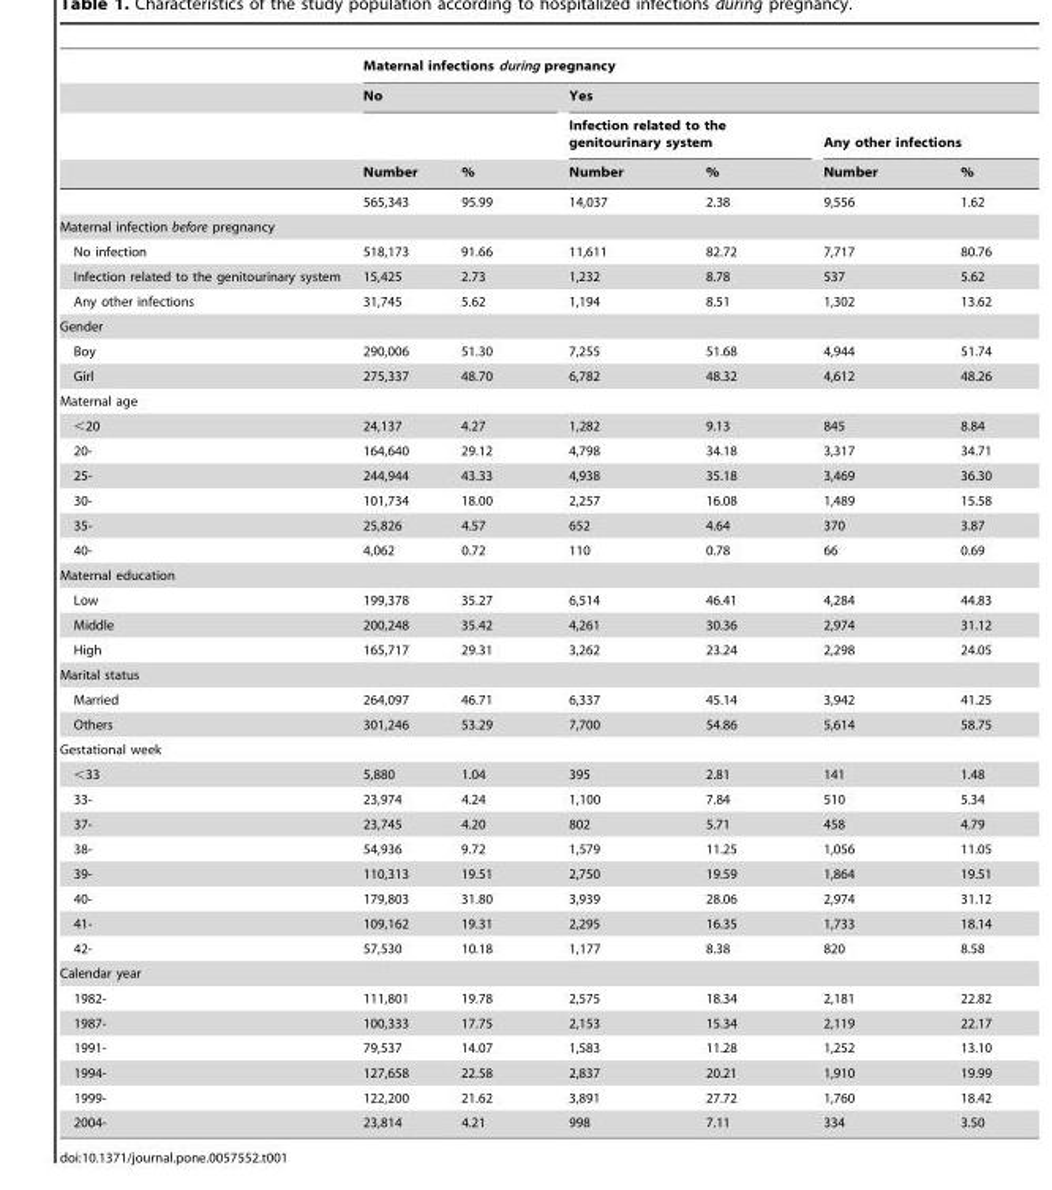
<table><thead><tr><td rowspan="4"></td><td colspan="6">Maternal infections during pregnancy</td></tr><tr><td colspan="2">No</td><td colspan="4">Yes</td></tr><tr><td rowspan="2">Number</td><td rowspan="2">%</td><td colspan="2">Infection related to the genitourinary system</td><td colspan="2">Any other infections</td></tr><tr><td>Number</td><td>%</td><td>Number</td><td>%</td></tr></thead><tbody><tr><td></td><td>565,343</td><td>95.99</td><td>14,037</td><td>2.38</td><td>9,556</td><td>1.62</td></tr><tr><td colspan="7">Maternal infection before pregnancy</td></tr><tr><td>No infection</td><td>518,173</td><td>91.66</td><td>11,611</td><td>82.72</td><td>7,717</td><td>80.76</td></tr><tr><td>Infection related to the genitourinary system</td><td>15,425</td><td>2.73</td><td>1,232</td><td>8.78</td><td>537</td><td>5.62</td></tr><tr><td>Any other infections</td><td>31,745</td><td>5.62</td><td>1,194</td><td>8.51</td><td>1,302</td><td>13.62</td></tr><tr><td colspan="7">Gender</td></tr><tr><td>Boy</td><td>290,006</td><td>51.30</td><td>7,255</td><td>51.68</td><td>4,944</td><td>51.74</td></tr><tr><td>Girl</td><td>275,337</td><td>48.70</td><td>6,782</td><td>48.32</td><td>4,612</td><td>48.26</td></tr><tr><td colspan="7">Maternal age</td></tr><tr><td>&lt;20</td><td>24,137</td><td>4.27</td><td>1,282</td><td>9.13</td><td>845</td><td>8.84</td></tr><tr><td>20-</td><td>164,640</td><td>29.12</td><td>4,798</td><td>34.18</td><td>3,317</td><td>34.71</td></tr><tr><td>25-</td><td>244,944</td><td>43.33</td><td>4,938</td><td>35.18</td><td>3,469</td><td>36.30</td></tr><tr><td>30-</td><td>101,734</td><td>18.00</td><td>2,257</td><td>16.08</td><td>1,489</td><td>15.58</td></tr><tr><td>35-</td><td>25,826</td><td>4.57</td><td>652</td><td>4.64</td><td>370</td><td>3.87</td></tr><tr><td>40-</td><td>4,062</td><td>0.72</td><td>110</td><td>0.78</td><td>66</td><td>0.69</td></tr><tr><td colspan="7">Maternal education</td></tr><tr><td>Low</td><td>199,378</td><td>35.27</td><td>6,514</td><td>46.41</td><td>4,284</td><td>44.83</td></tr><tr><td>Middle</td><td>200,248</td><td>35.42</td><td>4,261</td><td>30.36</td><td>2,974</td><td>31.12</td></tr><tr><td>High</td><td>165,717</td><td>29.31</td><td>3,262</td><td>23.24</td><td>2,298</td><td>24.05</td></tr><tr><td colspan="7">Marital status</td></tr><tr><td>Married</td><td>264,097</td><td>46.71</td><td>6,337</td><td>45.14</td><td>3,942</td><td>41.25</td></tr><tr><td>Others</td><td>301,246</td><td>53.29</td><td>7,700</td><td>54.86</td><td>5,614</td><td>58.75</td></tr><tr><td colspan="7">Gestational week</td></tr><tr><td>&lt;33</td><td>5,880</td><td>1.04</td><td>395</td><td>2.81</td><td>141</td><td>1.48</td></tr><tr><td>33-</td><td>23,974</td><td>4.24</td><td>1,100</td><td>7.84</td><td>510</td><td>5.34</td></tr><tr><td>37-</td><td>23,745</td><td>4.20</td><td>802</td><td>5.71</td><td>458</td><td>4.79</td></tr><tr><td>38-</td><td>54,936</td><td>9.72</td><td>1,579</td><td>11.25</td><td>1,056</td><td>11.05</td></tr><tr><td>39-</td><td>110,313</td><td>19.51</td><td>2,750</td><td>19.59</td><td>1,864</td><td>19.51</td></tr><tr><td>40-</td><td>179,803</td><td>31.80</td><td>3,939</td><td>28.06</td><td>2,974</td><td>31.12</td></tr><tr><td>41-</td><td>109,162</td><td>19.31</td><td>2,295</td><td>16.35</td><td>1,733</td><td>18.14</td></tr><tr><td>42-</td><td>57,530</td><td>10.18</td><td>1,177</td><td>8.38</td><td>820</td><td>8.58</td></tr><tr><td colspan="7">Calendar year</td></tr><tr><td>1982-</td><td>111,801</td><td>19.78</td><td>2,575</td><td>18.34</td><td>2,181</td><td>22.82</td></tr><tr><td>1987-</td><td>100,333</td><td>17.75</td><td>2,153</td><td>15.34</td><td>2,119</td><td>22.17</td></tr><tr><td>1991-</td><td>79,537</td><td>14.07</td><td>1,583</td><td>11.28</td><td>1,252</td><td>13.10</td></tr><tr><td>1994-</td><td>127,658</td><td>22.58</td><td>2,837</td><td>20.21</td><td>1,910</td><td>19.99</td></tr><tr><td>1999-</td><td>122,200</td><td>21.62</td><td>3,891</td><td>27.72</td><td>1,760</td><td>18.42</td></tr><tr><td>2004-</td><td>23,814</td><td>4.21</td><td>998</td><td>7.11</td><td>334</td><td>3.50</td></tr></tbody></table>